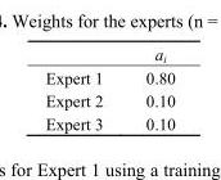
<table><thead><tr><td></td><td>a<sub>i</sub></td></tr></thead><tbody><tr><td>Expert 1</td><td>0.80</td></tr><tr><td>Expert 2</td><td>0.10</td></tr><tr><td>Expert 3</td><td>0.10</td></tr></tbody></table>